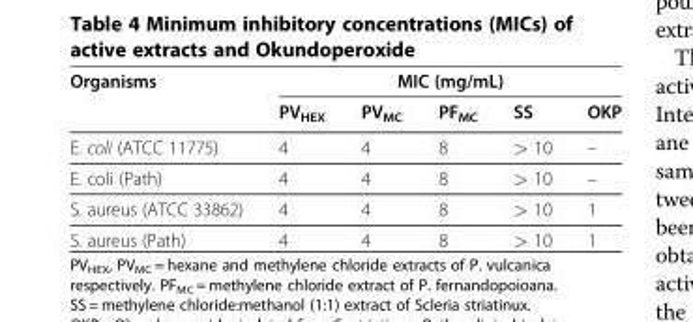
<table><thead><tr><td rowspan="2">Organisms</td><td colspan="5">MIC (mg/mL)</td></tr><tr><td>PV<sub>HEX</sub></td><td>PV<sub>MC</sub></td><td>PF<sub>MC</sub></td><td>SS</td><td>OKP</td></tr></thead><tbody><tr><td>E. coli (ATCC 11775)</td><td>4</td><td>4</td><td>8</td><td>&gt; 10</td><td>–</td></tr><tr><td>E. coli (Path)</td><td>4</td><td>4</td><td>8</td><td>&gt; 10</td><td>–</td></tr><tr><td>S. aureus (ATCC 33862)</td><td>4</td><td>4</td><td>8</td><td>&gt; 10</td><td>1</td></tr><tr><td>S. aureus (Path)</td><td>4</td><td>4</td><td>8</td><td>&gt; 10</td><td>1</td></tr></tbody></table>